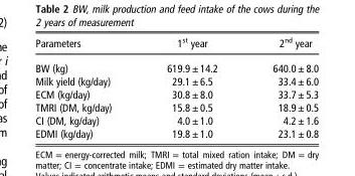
<table><thead><tr><td>Parameters</td><td>1<sup>st</sup> year</td><td>2<sup>nd</sup> year</td></tr></thead><tbody><tr><td>BW (kg)</td><td>619.9 ± 14.2</td><td>640.0 ± 8.0</td></tr><tr><td>Milk yield (kg/day)</td><td>29.1 ± 6.5</td><td>33.4 ± 6.0</td></tr><tr><td>ECM (kg/day)</td><td>30.8 ± 8.0</td><td>33.7 ± 5.3</td></tr><tr><td>TMRI (DM, kg/day)</td><td>15.8 ± 0.5</td><td>18.9 ± 0.5</td></tr><tr><td>CI (DM, kg/day)</td><td>4.0 ± 1.0</td><td>4.2 ± 1.6</td></tr><tr><td>EDMI (kg/day)</td><td>19.8 ± 1.0</td><td>23.1 ± 0.8</td></tr></tbody></table>